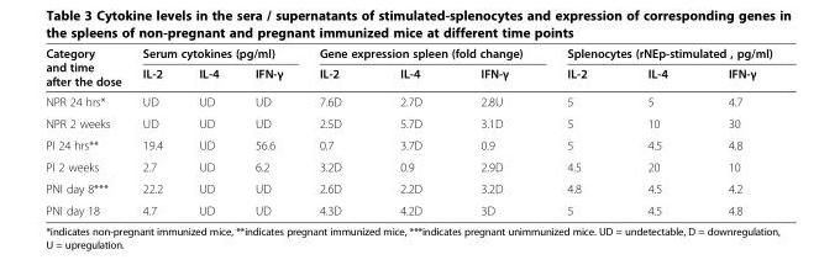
<table><thead><tr><td rowspan="2">Category and time after the dose</td><td colspan="3">Serum cytokines (pg/ml)</td><td colspan="3">Gene expression spleen (fold change)</td><td colspan="3">Splenocytes (rNEp-stimulated , pg/ml)</td></tr><tr><td>IL-2</td><td>IL-4</td><td>IFN-γ</td><td>IL-2</td><td>IL-4</td><td>IFN-γ</td><td>IL-2</td><td>IL-4</td><td>IFN-γ</td></tr></thead><tbody><tr><td>NPR 24 hrs*</td><td>UD</td><td>UD</td><td>UD</td><td>7.6D</td><td>2.7D</td><td>2.8U</td><td>5</td><td>5</td><td>4.7</td></tr><tr><td>NPR 2 weeks</td><td>UD</td><td>UD</td><td>UD</td><td>2.5D</td><td>5.7D</td><td>3.1D</td><td>5</td><td>10</td><td>30</td></tr><tr><td>PI 24 hrs**</td><td>19.4</td><td>UD</td><td>56.6</td><td>0.7</td><td>3.7D</td><td>0.9</td><td>5</td><td>4.5</td><td>4.8</td></tr><tr><td>PI 2 weeks</td><td>2.7</td><td>UD</td><td>6.2</td><td>3.2D</td><td>0.9</td><td>2.9D</td><td>4.5</td><td>20</td><td>10</td></tr><tr><td>PNI day 8***</td><td>22.2</td><td>UD</td><td>UD</td><td>2.6D</td><td>2.2D</td><td>3.2D</td><td>4.8</td><td>4.5</td><td>4.2</td></tr><tr><td>PNI day 18</td><td>4.7</td><td>UD</td><td>UD</td><td>4.3D</td><td>4.2D</td><td>3D</td><td>5</td><td>4.5</td><td>4.8</td></tr></tbody></table>